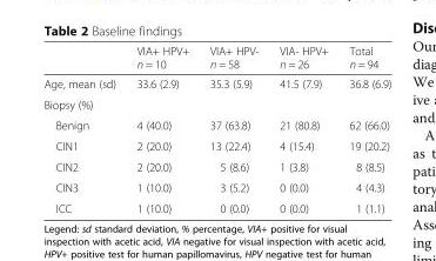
<table><thead><tr><td></td><td>VIA+ HPV+ n = 10</td><td>VIA+ HPV- n = 58</td><td>VIA- HPV+ n = 26</td><td>Total n = 94</td></tr></thead><tbody><tr><td>Age, mean (sd)</td><td>33.6 (2.9)</td><td>35.3 (5.9)</td><td>41.5 (7.9)</td><td>36.8 (6.9)</td></tr><tr><td colspan="5">Biopsy (%)</td></tr><tr><td>Benign</td><td>4 (40.0)</td><td>37 (63.8)</td><td>21 (80.8)</td><td>62 (66.0)</td></tr><tr><td>CIN1</td><td>2 (20.0)</td><td>13 (22.4)</td><td>4 (15.4)</td><td>19 (20.2)</td></tr><tr><td>CIN2</td><td>2 (20.0)</td><td>5 (8.6)</td><td>1 (3.8)</td><td>8 (8.5)</td></tr><tr><td>CIN3</td><td>1 (10.0)</td><td>3 (5.2)</td><td>0 (0.0)</td><td>4 (4.3)</td></tr><tr><td>ICC</td><td>1 (10.0)</td><td>0 (0.0)</td><td>0 (0.0)</td><td>1 (1.1)</td></tr></tbody></table>